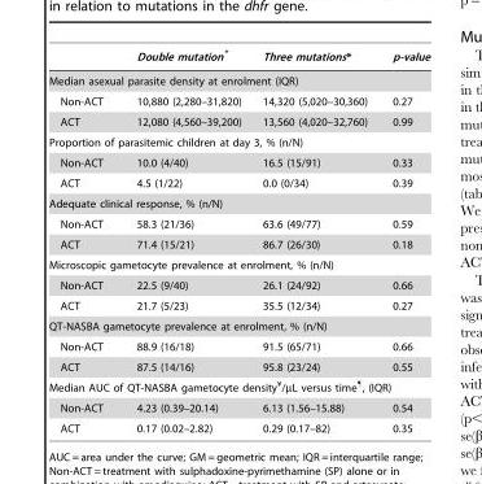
<table><thead><tr><td></td><td>Double mutation*</td><td>Three mutations*</td><td>p-value</td></tr></thead><tbody><tr><td colspan="4">Median asexual parasite density at enrolment (IQR)</td></tr><tr><td>Non-ACT</td><td>10,880 (2,280–31,820)</td><td>14,320 (5,020–30,360)</td><td>0.27</td></tr><tr><td>ACT</td><td>12,080 (4,560–39,200)</td><td>13,560 (4,020–32,760)</td><td>0.99</td></tr><tr><td colspan="4">Proportion of parasitemic children at day 3, % (n/N)</td></tr><tr><td>Non-ACT</td><td>10.0 (4/40)</td><td>16.5 (15/91)</td><td>0.33</td></tr><tr><td>ACT</td><td>4.5 (1/22)</td><td>0.0 (0/34)</td><td>0.39</td></tr><tr><td colspan="4">Adequate clinical response, % (n/N)</td></tr><tr><td>Non-ACT</td><td>58.3 (21/36)</td><td>63.6 (49/77)</td><td>0.59</td></tr><tr><td>ACT</td><td>71.4 (15/21)</td><td>86.7 (26/30)</td><td>0.18</td></tr><tr><td colspan="4">Microscopic gametocyte prevalence at enrolment, % (n/N)</td></tr><tr><td>Non-ACT</td><td>22.5 (9/40)</td><td>26.1 (24/92)</td><td>0.66</td></tr><tr><td>ACT</td><td>21.7 (5/23)</td><td>35.5 (12/34)</td><td>0.27</td></tr><tr><td colspan="4">QT-NASBA gametocyte prevalence at enrolment, % (n/N)</td></tr><tr><td>Non-ACT</td><td>88.9 (16/18)</td><td>91.5 (65/71)</td><td>0.66</td></tr><tr><td>ACT</td><td>87.5 (14/16)</td><td>95.8 (23/24)</td><td>0.55</td></tr><tr><td colspan="4">Median AUC of QT-NASBA gametocyte density¥/µL versus time¶, (IQR)</td></tr><tr><td>Non-ACT</td><td>4.23 (0.39–20.14)</td><td>6.13 (1.56–15.88)</td><td>0.54</td></tr><tr><td>ACT</td><td>0.17 (0.02–2.82)</td><td>0.29 (0.17–82)</td><td>0.35</td></tr></tbody></table>